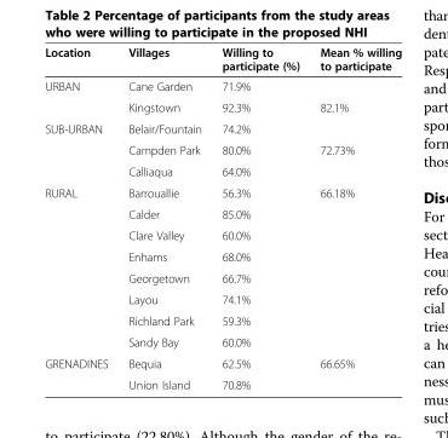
<table><thead><tr><td>Location</td><td>Villages</td><td>Willing to participate (%)</td><td>Mean % willing to participate</td></tr></thead><tbody><tr><td rowspan="2">URBAN</td><td>Cane Garden</td><td>71.9%</td><td></td></tr><tr><td>Kingstown</td><td>92.3%</td><td>82.1%</td></tr><tr><td rowspan="3">SUB-URBAN</td><td>Belair/Fountain</td><td>74.2%</td><td></td></tr><tr><td>Campden Park</td><td>80.0%</td><td>72.73%</td></tr><tr><td>Calliaqua</td><td>64.0%</td><td></td></tr><tr><td rowspan="8">RURAL</td><td>Barrouallie</td><td>56.3%</td><td>66.18%</td></tr><tr><td>Calder</td><td>85.0%</td><td></td></tr><tr><td>Clare Valley</td><td>60.0%</td><td></td></tr><tr><td>Enhams</td><td>68.0%</td><td></td></tr><tr><td>Georgetown</td><td>66.7%</td><td></td></tr><tr><td>Layou</td><td>74.1%</td><td></td></tr><tr><td>Richland Park</td><td>59.3%</td><td></td></tr><tr><td>Sandy Bay</td><td>60.0%</td><td></td></tr><tr><td rowspan="2">GRENADINES</td><td>Bequia</td><td>62.5%</td><td>66.65%</td></tr><tr><td>Union Island</td><td>70.8%</td><td></td></tr></tbody></table>